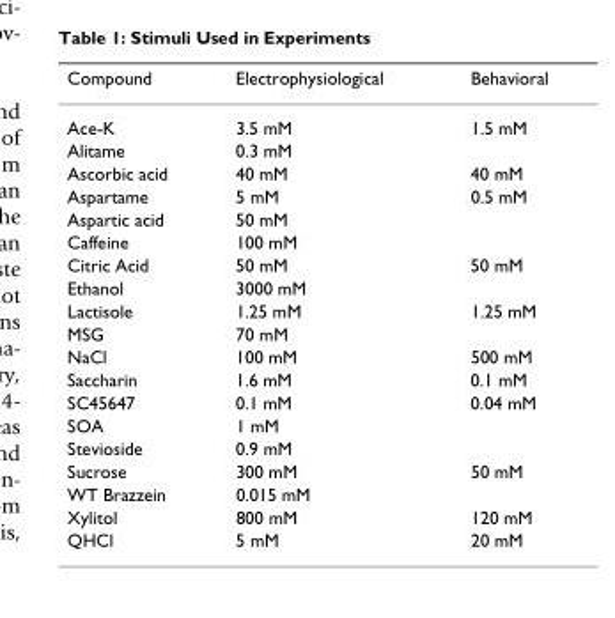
<table><thead><tr><td>Compound</td><td>Electrophysiological</td><td>Behavioral</td></tr></thead><tbody><tr><td>Ace-K</td><td>3.5 mM</td><td>1.5 mM</td></tr><tr><td>Alitame</td><td>0.3 mM</td><td></td></tr><tr><td>Ascorbic acid</td><td>40 mM</td><td>40 mM</td></tr><tr><td>Aspartame</td><td>5 mM</td><td>0.5 mM</td></tr><tr><td>Aspartic acid</td><td>50 mM</td><td></td></tr><tr><td>Caffeine</td><td>100 mM</td><td></td></tr><tr><td>Citric Acid</td><td>50 mM</td><td>50 mM</td></tr><tr><td>Ethanol</td><td>3000 mM</td><td></td></tr><tr><td>Lactisole</td><td>1.25 mM</td><td>1.25 mM</td></tr><tr><td>MSG</td><td>70 mM</td><td></td></tr><tr><td>NaCl</td><td>100 mM</td><td>500 mM</td></tr><tr><td>Saccharin</td><td>1.6 mM</td><td>0.1 mM</td></tr><tr><td>SC45647</td><td>0.1 mM</td><td>0.04 mM</td></tr><tr><td>SOA</td><td>1 mM</td><td></td></tr><tr><td>Stevioside</td><td>0.9 mM</td><td></td></tr><tr><td>Sucrose</td><td>300 mM</td><td>50 mM</td></tr><tr><td>WT Brazzein</td><td>0.015 mM</td><td></td></tr><tr><td>Xylitol</td><td>800 mM</td><td>120 mM</td></tr><tr><td>QHCl</td><td>5 mM</td><td>20 mM</td></tr></tbody></table>